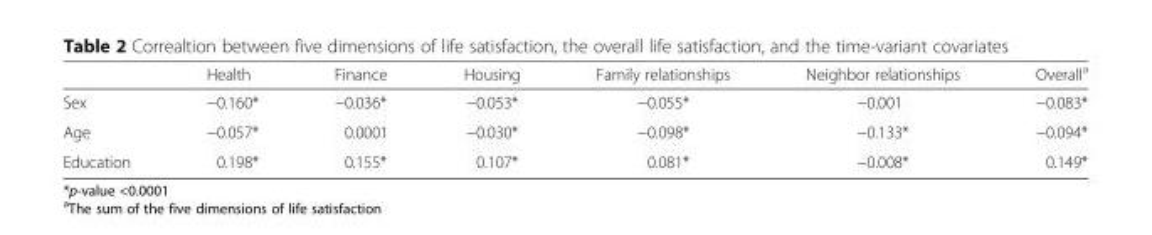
<table><thead><tr><td></td><td>Health</td><td>Finance</td><td>Housing</td><td>Family relationships</td><td>Neighbor relationships</td><td>Overall<sup>a</sup></td></tr></thead><tbody><tr><td>Sex</td><td>−0.160*</td><td>−0.036*</td><td>−0.053*</td><td>−0.055*</td><td>−0.001</td><td>−0.083*</td></tr><tr><td>Age</td><td>−0.057*</td><td>0.0001</td><td>−0.030*</td><td>−0.098*</td><td>−0.133*</td><td>−0.094*</td></tr><tr><td>Education</td><td>0.198*</td><td>0.155*</td><td>0.107*</td><td>0.081*</td><td>−0.008*</td><td>0.149*</td></tr></tbody></table>